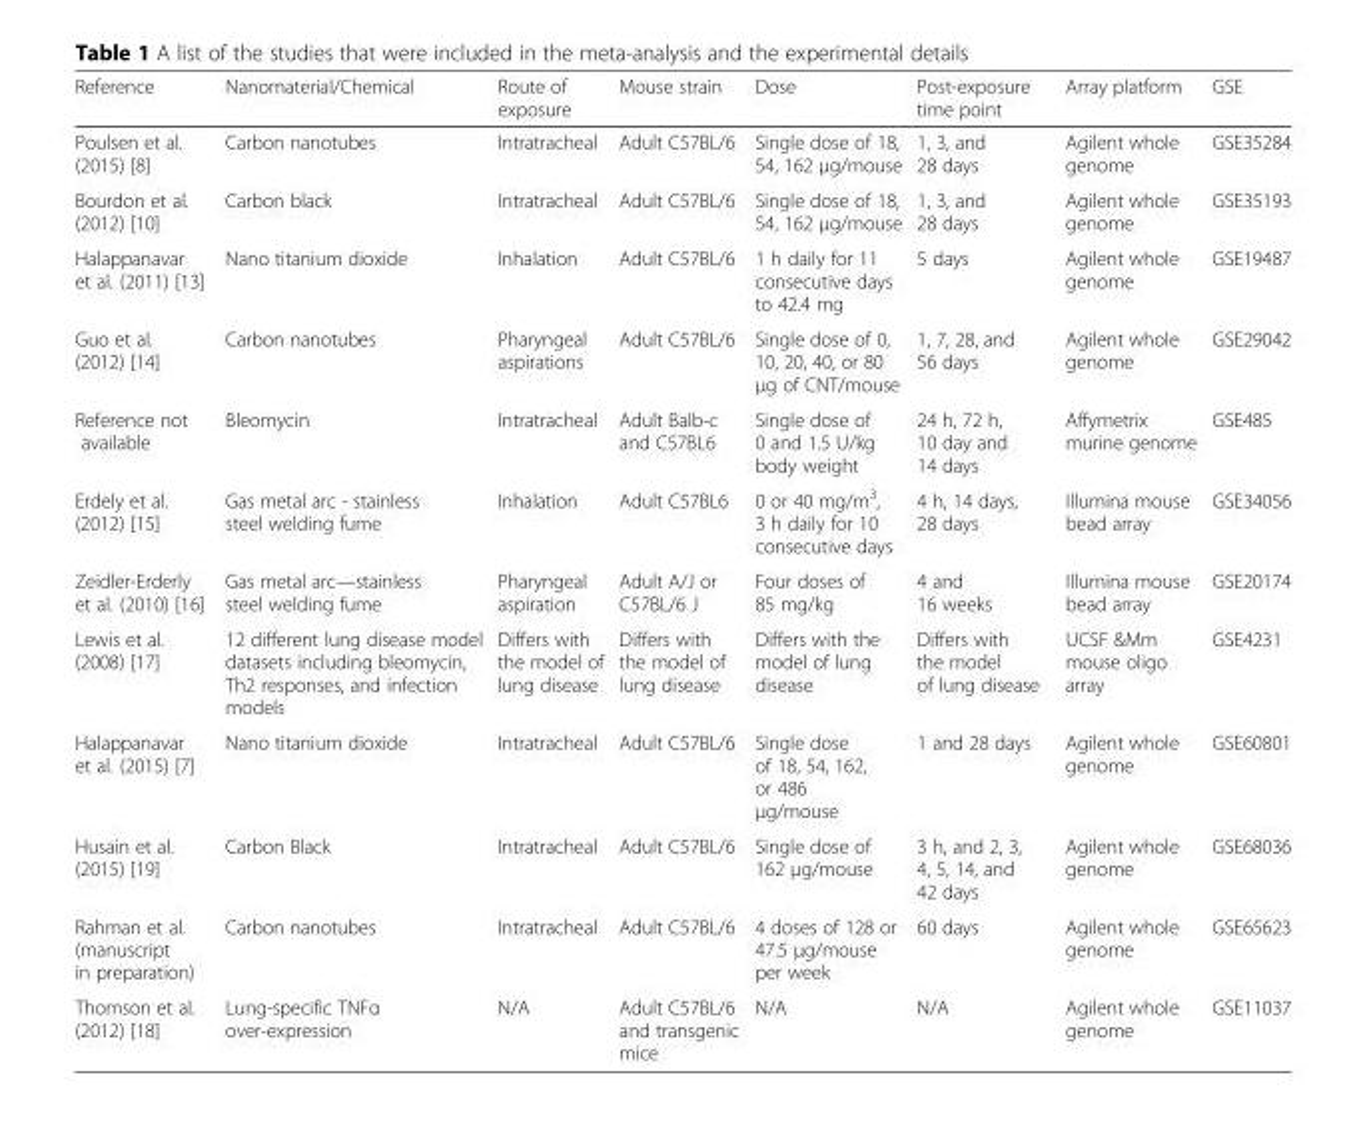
<table><thead><tr><td>Reference</td><td>Nanomaterial/Chemical</td><td>Route of exposure</td><td>Mouse strain</td><td>Dose</td><td>Post-exposure time point</td><td>Array platform</td><td>GSE</td></tr></thead><tbody><tr><td>Poulsen et al. (2015) [8]</td><td>Carbon nanotubes</td><td>Intratracheal</td><td>Adult C57BL/6</td><td>Single dose of 18, 54, 162 μg/mouse</td><td>1, 3, and 28 days</td><td>Agilent whole genome</td><td>GSE35284</td></tr><tr><td>Bourdon et al. (2012) [10]</td><td>Carbon black</td><td>Intratracheal</td><td>Adult C57BL/6</td><td>Single dose of 18, 54, 162 μg/mouse</td><td>1, 3, and 28 days</td><td>Agilent whole genome</td><td>GSE35193</td></tr><tr><td>Halappanavar et al. (2011) [13]</td><td>Nano titanium dioxide</td><td>Inhalation</td><td>Adult C57BL/6</td><td>1 h daily for 11 consecutive days to 42.4 mg</td><td>5 days</td><td>Agilent whole genome</td><td>GSE19487</td></tr><tr><td>Guo et al. (2012) [14]</td><td>Carbon nanotubes</td><td>Pharyngeal aspirations</td><td>Adult C57BL/6</td><td>Single dose of 0, 10, 20, 40, or 80 μg of CNT/mouse</td><td>1, 7, 28, and 56 days</td><td>Agilent whole genome</td><td>GSE29042</td></tr><tr><td>Reference not available</td><td>Bleomycin</td><td>Intratracheal</td><td>Adult Balb-c and C57BL6</td><td>Single dose of 0 and 1.5 U/kg body weight</td><td>24 h, 72 h, 10 day and 14 days</td><td>Affymetrix murine genome</td><td>GSE485</td></tr><tr><td>Erdely et al. (2012) [15]</td><td>Gas metal arc - stainless steel welding fume</td><td>Inhalation</td><td>Adult C57BL6</td><td>0 or 40 mg/m<sup>3</sup>, 3 h daily for 10 consecutive days</td><td>4 h, 14 days, 28 days</td><td>Illumina mouse bead array</td><td>GSE34056</td></tr><tr><td>Zeidler-Erderly et al. (2010) [16]</td><td>Gas metal arc—stainless steel welding fume</td><td>Pharyngeal aspiration</td><td>Adult A/J or C57BL/6 J</td><td>Four doses of 85 mg/kg</td><td>4 and 16 weeks</td><td>Illumina mouse bead array</td><td>GSE20174</td></tr><tr><td>Lewis et al. (2008) [17]</td><td>12 different lung disease model datasets including bleomycin, Th2 responses, and infection models</td><td>Differs with the model of lung disease</td><td>Differs with the model of lung disease</td><td>Differs with the model of lung disease</td><td>Differs with the model of lung disease</td><td>UCSF &amp;Mm mouse oligo array</td><td>GSE4231</td></tr><tr><td>Halappanavar et al. (2015) [7]</td><td>Nano titanium dioxide</td><td>Intratracheal</td><td>Adult C57BL/6</td><td>Single dose of 18, 54, 162, or 486 μg/mouse</td><td>1 and 28 days</td><td>Agilent whole genome</td><td>GSE60801</td></tr><tr><td>Husain et al. (2015) [19]</td><td>Carbon Black</td><td>Intratracheal</td><td>Adult C57BL/6</td><td>Single dose of 162 μg/mouse</td><td>3 h, and 2, 3, 4, 5, 14, and 42 days</td><td>Agilent whole genome</td><td>GSE68036</td></tr><tr><td>Rahman et al. (manuscript in preparation)</td><td>Carbon nanotubes</td><td>Intratracheal</td><td>Adult C57BL/6</td><td>4 doses of 128 or 47.5 μg/mouse per week</td><td>60 days</td><td>Agilent whole genome</td><td>GSE65623</td></tr><tr><td>Thomson et al. (2012) [18]</td><td>Lung-specific TNFα over-expression</td><td>N/A</td><td>Adult C57BL/6 and transgenic mice</td><td>N/A</td><td>N/A</td><td>Agilent whole genome</td><td>GSE11037</td></tr></tbody></table>